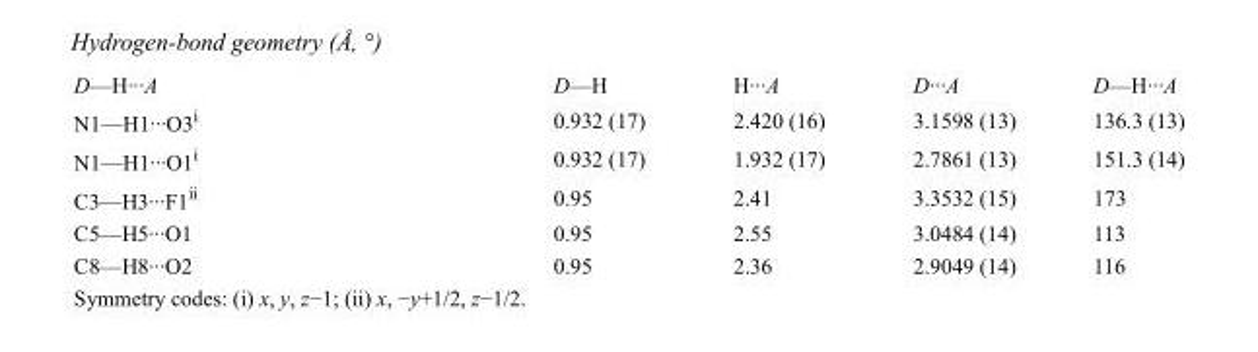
<table><tbody><tr><td>D—H···A</td><td>D—H</td><td>H···A</td><td>D···A</td><td>D—H···A</td></tr><tr><td>N1—H1···O3<sup>i</sup></td><td>0.932 (17)</td><td>2.420 (16)</td><td>3.1598 (13)</td><td>136.3 (13)</td></tr><tr><td>N1—H1···O1<sup>i</sup></td><td>0.932 (17)</td><td>1.932 (17)</td><td>2.7861 (13)</td><td>151.3 (14)</td></tr><tr><td>C3—H3···F1<sup>ii</sup></td><td>0.95</td><td>2.41</td><td>3.3532 (15)</td><td>173</td></tr><tr><td>C5—H5···O1</td><td>0.95</td><td>2.55</td><td>3.0484 (14)</td><td>113</td></tr><tr><td>C8—H8···O2</td><td>0.95</td><td>2.36</td><td>2.9049 (14)</td><td>116</td></tr></tbody></table>